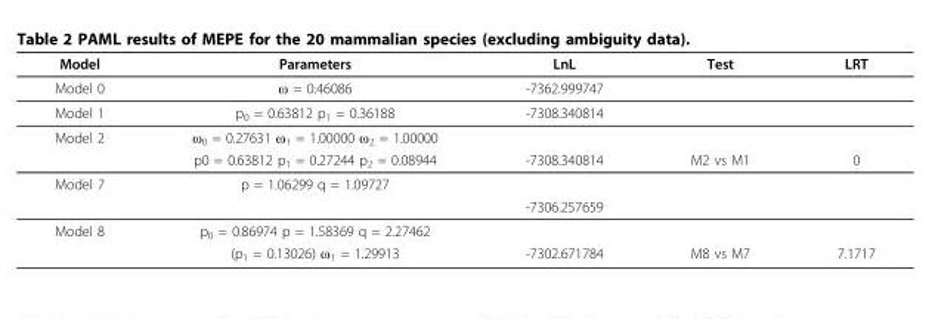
<table><thead><tr><td>Model</td><td>Parameters</td><td>LnL</td><td>Test</td><td>LRT</td></tr></thead><tbody><tr><td>Model 0</td><td>ω = 0.46086</td><td>-7362.999747</td><td></td><td></td></tr><tr><td>Model 1</td><td>p<sub>0</sub> = 0.63812 p<sub>1</sub> = 0.36188</td><td>-7308.340814</td><td></td><td></td></tr><tr><td rowspan="2">Model 2</td><td>ω<sub>0</sub> = 0.27631 ω<sub>1</sub> = 1.00000 ω<sub>2</sub> = 1.00000</td><td></td><td></td><td></td></tr><tr><td>p0 = 0.63812 p<sub>1</sub> = 0.27244 p<sub>2</sub> = 0.08944</td><td>-7308.340814</td><td>M2 vs M1</td><td>0</td></tr><tr><td rowspan="2">Model 7</td><td>p = 1.06299 q = 1.09727</td><td></td><td></td><td></td></tr><tr><td></td><td>-7306.257659</td><td></td><td></td></tr><tr><td rowspan="2">Model 8</td><td>p<sub>0</sub> = 0.86974 p = 1.58369 q = 2.27462</td><td></td><td></td><td></td></tr><tr><td>(p<sub>1</sub> = 0.13026) ω<sub>1</sub> = 1.29913</td><td>-7302.671784</td><td>M8 vs M7</td><td>7.1717</td></tr></tbody></table>